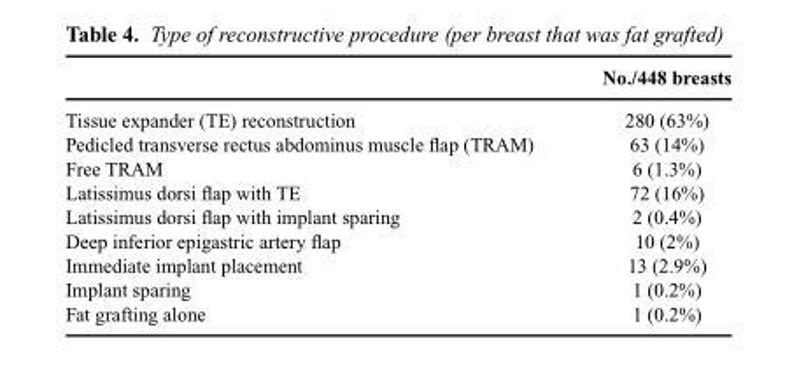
<table><thead><tr><td></td><td>No./448 breasts</td></tr></thead><tbody><tr><td>Tissue expander (TE) reconstruction</td><td>280 (63%)</td></tr><tr><td>Pedicled transverse rectus abdominus muscle flap (TRAM)</td><td>63 (14%)</td></tr><tr><td>Free TRAM</td><td>6 (1.3%)</td></tr><tr><td>Latissimus dorsi flap with TE</td><td>72 (16%)</td></tr><tr><td>Latissimus dorsi flap with implant sparing</td><td>2 (0.4%)</td></tr><tr><td>Deep inferior epigastric artery flap</td><td>10 (2%)</td></tr><tr><td>Immediate implant placement</td><td>13 (2.9%)</td></tr><tr><td>Implant sparing</td><td>1 (0.2%)</td></tr><tr><td>Fat grafting alone</td><td>1 (0.2%)</td></tr></tbody></table>